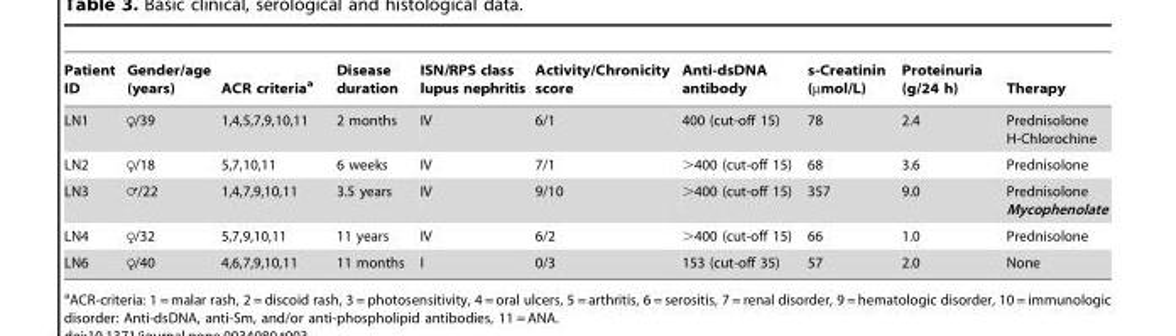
<table><thead><tr><td>Patient ID</td><td>Gender/age (years)</td><td>ACR criteria<sup>a</sup></td><td>Disease duration</td><td>ISN/RPS class lupus nephritis</td><td>Activity/Chronicity score</td><td>Anti-dsDNA antibody</td><td>s-Creatinin (µmol/L)</td><td>Proteinuria (g/24 h)</td><td>Therapy</td></tr></thead><tbody><tr><td>LN1</td><td>♀/39</td><td>1,4,5,7,9,10,11</td><td>2 months</td><td>IV</td><td>6/1</td><td>400 (cut-off 15)</td><td>78</td><td>2.4</td><td>Prednisolone H-Chlorochine</td></tr><tr><td>LN2</td><td>♀/18</td><td>5,7,10,11</td><td>6 weeks</td><td>IV</td><td>7/1</td><td>&gt;400 (cut-off 15)</td><td>68</td><td>3.6</td><td>Prednisolone</td></tr><tr><td>LN3</td><td>=/22</td><td>1,4,7,9,10,11</td><td>3.5 years</td><td>IV</td><td>9/10</td><td>&gt;400 (cut-off 15)</td><td>357</td><td>9.0</td><td>Prednisolone Mycophenolate</td></tr><tr><td>LN4</td><td>♀/32</td><td>5,7,9,10,11</td><td>11 years</td><td>IV</td><td>6/2</td><td>&gt;400 (cut-off 15)</td><td>66</td><td>1.0</td><td>Prednisolone</td></tr><tr><td>LN6</td><td>♀/40</td><td>4,6,7,9,10,11</td><td>11 months</td><td>I</td><td>0/3</td><td>153 (cut-off 35)</td><td>57</td><td>2.0</td><td>None</td></tr></tbody></table>